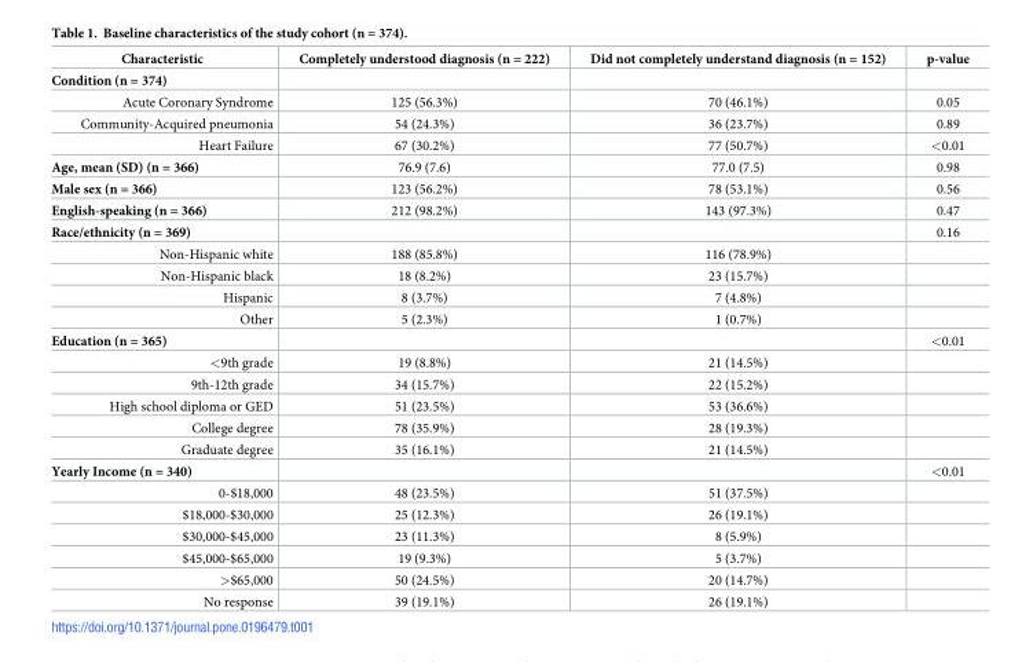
<table><thead><tr><td>Characteristic</td><td>Completely understood diagnosis (n = 222)</td><td>Did not completely understand diagnosis (n = 152)</td><td>p-value</td></tr></thead><tbody><tr><td colspan="4">Condition (n = 374)</td></tr><tr><td>Acute Coronary Syndrome</td><td>125 (56.3%)</td><td>70 (46.1%)</td><td>0.05</td></tr><tr><td>Community-Acquired pneumonia</td><td>54 (24.3%)</td><td>36 (23.7%)</td><td>0.89</td></tr><tr><td>Heart Failure</td><td>67 (30.2%)</td><td>77 (50.7%)</td><td>&lt;0.01</td></tr><tr><td>Age, mean (SD) (n = 366)</td><td>76.9 (7.6)</td><td>77.0 (7.5)</td><td>0.98</td></tr><tr><td>Male sex (n = 366)</td><td>123 (56.2%)</td><td>78 (53.1%)</td><td>0.56</td></tr><tr><td>English-speaking (n = 366)</td><td>212 (98.2%)</td><td>143 (97.3%)</td><td>0.47</td></tr><tr><td>Race/ethnicity (n = 369)</td><td></td><td></td><td>0.16</td></tr><tr><td>Non-Hispanic white</td><td>188 (85.8%)</td><td>116 (78.9%)</td><td></td></tr><tr><td>Non-Hispanic black</td><td>18 (8.2%)</td><td>23 (15.7%)</td><td></td></tr><tr><td>Hispanic</td><td>8 (3.7%)</td><td>7 (4.8%)</td><td></td></tr><tr><td>Other</td><td>5 (2.3%)</td><td>1 (0.7%)</td><td></td></tr><tr><td>Education (n = 365)</td><td></td><td></td><td>&lt;0.01</td></tr><tr><td>&lt;9th grade</td><td>19 (8.8%)</td><td>21 (14.5%)</td><td></td></tr><tr><td>9th-12th grade</td><td>34 (15.7%)</td><td>22 (15.2%)</td><td></td></tr><tr><td>High school diploma or GED</td><td>51 (23.5%)</td><td>53 (36.6%)</td><td></td></tr><tr><td>College degree</td><td>78 (35.9%)</td><td>28 (19.3%)</td><td></td></tr><tr><td>Graduate degree</td><td>35 (16.1%)</td><td>21 (14.5%)</td><td></td></tr><tr><td>Yearly Income (n = 340)</td><td></td><td></td><td>&lt;0.01</td></tr><tr><td>0-$18,000</td><td>48 (23.5%)</td><td>51 (37.5%)</td><td></td></tr><tr><td>$18,000-$30,000</td><td>25 (12.3%)</td><td>26 (19.1%)</td><td></td></tr><tr><td>$30,000-$45,000</td><td>23 (11.3%)</td><td>8 (5.9%)</td><td></td></tr><tr><td>$45,000-$65,000</td><td>19 (9.3%)</td><td>5 (3.7%)</td><td></td></tr><tr><td>&gt;$65,000</td><td>50 (24.5%)</td><td>20 (14.7%)</td><td></td></tr><tr><td>No response</td><td>39 (19.1%)</td><td>26 (19.1%)</td><td></td></tr></tbody></table>